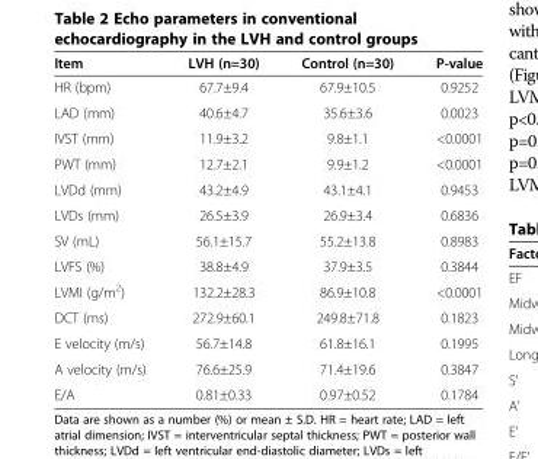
<table><thead><tr><td>Item</td><td>LVH (n=30)</td><td>Control (n=30)</td><td>P-value</td></tr></thead><tbody><tr><td>HR (bpm)</td><td>67.7±9.4</td><td>67.9±10.5</td><td>0.9252</td></tr><tr><td>LAD (mm)</td><td>40.6±4.7</td><td>35.6±3.6</td><td>0.0023</td></tr><tr><td>IVST (mm)</td><td>11.9±3.2</td><td>9.8±1.1</td><td>&lt;0.0001</td></tr><tr><td>PWT (mm)</td><td>12.7±2.1</td><td>9.9±1.2</td><td>&lt;0.0001</td></tr><tr><td>LVDd (mm)</td><td>43.2±4.9</td><td>43.1±4.1</td><td>0.9453</td></tr><tr><td>LVDs (mm)</td><td>26.5±3.9</td><td>26.9±3.4</td><td>0.6836</td></tr><tr><td>SV (mL)</td><td>56.1±15.7</td><td>55.2±13.8</td><td>0.8983</td></tr><tr><td>LVFS (%)</td><td>38.8±4.9</td><td>37.9±3.5</td><td>0.3844</td></tr><tr><td>LVMI (g/m<sup>2</sup>)</td><td>132.2±28.3</td><td>86.9±10.8</td><td>&lt;0.0001</td></tr><tr><td>DCT (ms)</td><td>272.9±60.1</td><td>249.8±71.8</td><td>0.1823</td></tr><tr><td>E velocity (m/s)</td><td>56.7±14.8</td><td>61.8±16.1</td><td>0.1995</td></tr><tr><td>A velocity (m/s)</td><td>76.6±25.9</td><td>71.4±19.6</td><td>0.3847</td></tr><tr><td>E/A</td><td>0.81±0.33</td><td>0.97±0.52</td><td>0.1784</td></tr></tbody></table>